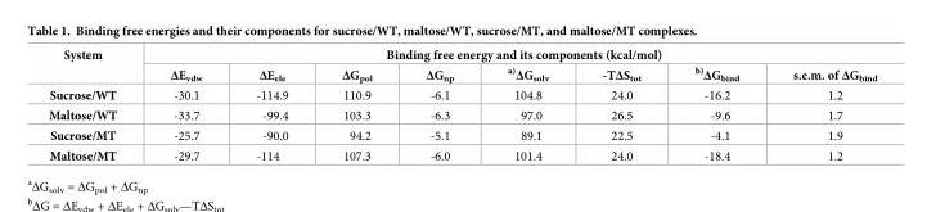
<table><thead><tr><td rowspan="2">System</td><td colspan="8">Binding free energy and its components (kcal/mol)</td></tr><tr><td>ΔE<sub>vdw</sub></td><td>ΔE<sub>ele</sub></td><td>ΔG<sub>pol</sub></td><td>ΔG<sub>np</sub></td><td><sup>a)</sup>ΔG<sub>solv</sub></td><td>-TΔS<sub>tot</sub></td><td><sup>b)</sup>ΔG<sub>bind</sub></td><td>s.e.m. of ΔG<sub>bind</sub></td></tr></thead><tbody><tr><td>Sucrose/WT</td><td>-30.1</td><td>-114.9</td><td>110.9</td><td>-6.1</td><td>104.8</td><td>24.0</td><td>-16.2</td><td>1.2</td></tr><tr><td>Maltose/WT</td><td>-33.7</td><td>-99.4</td><td>103.3</td><td>-6.3</td><td>97.0</td><td>26.5</td><td>-9.6</td><td>1.7</td></tr><tr><td>Sucrose/MT</td><td>-25.7</td><td>-90.0</td><td>94.2</td><td>-5.1</td><td>89.1</td><td>22.5</td><td>-4.1</td><td>1.9</td></tr><tr><td>Maltose/MT</td><td>-29.7</td><td>-114</td><td>107.3</td><td>-6.0</td><td>101.4</td><td>24.0</td><td>-18.4</td><td>1.2</td></tr></tbody></table>